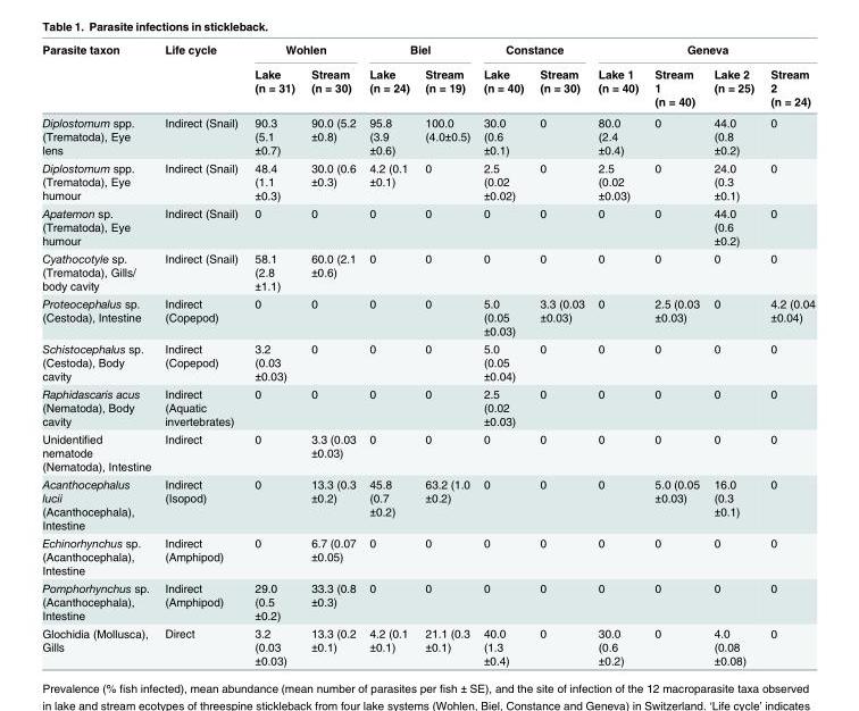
<table><thead><tr><td rowspan="2">Parasite taxon</td><td rowspan="2">Life cycle</td><td colspan="2">Wohlen</td><td colspan="2">Biel</td><td colspan="2">Constance</td><td colspan="4">Geneva</td></tr><tr><td>Lake (n = 31)</td><td>Stream (n = 30)</td><td>Lake (n = 24)</td><td>Stream (n = 19)</td><td>Lake (n = 40)</td><td>Stream (n = 30)</td><td>Lake 1 (n = 40)</td><td>Stream 1 (n = 40)</td><td>Lake 2 (n = 25)</td><td>Stream 2 (n = 24)</td></tr></thead><tbody><tr><td>Diplostomum spp. (Trematoda), Eye lens</td><td>Indirect (Snail)</td><td>90.3 (5.1 ±0.7)</td><td>90.0 (5.2 ±0.8)</td><td>95.8 (3.9 ±0.6)</td><td>100.0 (4.0±0.5)</td><td>30.0 (0.6 ±0.1)</td><td>0</td><td>80.0 (2.4 ±0.4)</td><td>0</td><td>44.0 (0.8 ±0.2)</td><td>0</td></tr><tr><td>Diplostomum spp. (Trematoda), Eye humour</td><td>Indirect (Snail)</td><td>48.4 (1.1 ±0.3)</td><td>30.0 (0.6 ±0.3)</td><td>4.2 (0.1 ±0.1)</td><td>0</td><td>2.5 (0.02 ±0.02)</td><td>0</td><td>2.5 (0.02 ±0.03)</td><td>0</td><td>24.0 (0.3 ±0.1)</td><td>0</td></tr><tr><td>Apatemon sp. (Trematoda), Eye humour</td><td>Indirect (Snail)</td><td>0</td><td>0</td><td>0</td><td>0</td><td>0</td><td>0</td><td>0</td><td>0</td><td>44.0 (0.6 ±0.2)</td><td>0</td></tr><tr><td>Cyathocotyle sp. (Trematoda), Gills/ body cavity</td><td>Indirect (Snail)</td><td>58.1 (2.8 ±1.1)</td><td>60.0 (2.1 ±0.6)</td><td>0</td><td>0</td><td>0</td><td>0</td><td>0</td><td>0</td><td>0</td><td>0</td></tr><tr><td>Proteocephalus sp. (Cestoda), Intestine</td><td>Indirect (Copepod)</td><td>0</td><td>0</td><td>0</td><td>0</td><td>5.0 (0.05 ±0.03)</td><td>3.3 (0.03 ±0.03)</td><td>0</td><td>2.5 (0.03 ±0.03)</td><td>0</td><td>4.2 (0.04 ±0.04)</td></tr><tr><td>Schistocephalus sp. (Cestoda), Body cavity</td><td>Indirect (Copepod)</td><td>3.2 (0.03 ±0.03)</td><td>0</td><td>0</td><td>0</td><td>5.0 (0.05 ±0.04)</td><td>0</td><td>0</td><td>0</td><td>0</td><td>0</td></tr><tr><td>Raphidascaris acus (Nematoda), Body cavity</td><td>Indirect (Aquatic invertebrates)</td><td>0</td><td>0</td><td>0</td><td>0</td><td>2.5 (0.02 ±0.03)</td><td>0</td><td>0</td><td>0</td><td>0</td><td>0</td></tr><tr><td>Unidentified nematode (Nematoda), Intestine</td><td>Indirect</td><td>0</td><td>3.3 (0.03 ±0.03)</td><td>0</td><td>0</td><td>0</td><td>0</td><td>0</td><td>0</td><td>0</td><td>0</td></tr><tr><td>Acanthocephalus lucii (Acanthocephala), Intestine</td><td>Indirect (Isopod)</td><td>0</td><td>13.3 (0.3 ±0.2)</td><td>45.8 (0.7 ±0.2)</td><td>63.2 (1.0 ±0.2)</td><td>0</td><td>0</td><td>0</td><td>5.0 (0.05 ±0.03)</td><td>16.0 (0.3 ±0.1)</td><td>0</td></tr><tr><td>Echinorhynchus sp. (Acanthocephala), Intestine</td><td>Indirect (Amphipod)</td><td>0</td><td>6.7 (0.07 ±0.05)</td><td>0</td><td>0</td><td>0</td><td>0</td><td>0</td><td>0</td><td>0</td><td>0</td></tr><tr><td>Pomphorhynchus sp. (Acanthocephala), Intestine</td><td>Indirect (Amphipod)</td><td>29.0 (0.5 ±0.2)</td><td>33.3 (0.8 ±0.3)</td><td>0</td><td>0</td><td>0</td><td>0</td><td>0</td><td>0</td><td>0</td><td>0</td></tr><tr><td>Glochidia (Mollusca), Gills</td><td>Direct</td><td>3.2 (0.03 ±0.03)</td><td>13.3 (0.2 ±0.1)</td><td>4.2 (0.1 ±0.1)</td><td>21.1 (0.3 ±0.1)</td><td>40.0 (1.3 ±0.4)</td><td>0</td><td>30.0 (0.6 ±0.2)</td><td>0</td><td>4.0 (0.08 ±0.08)</td><td>0</td></tr></tbody></table>